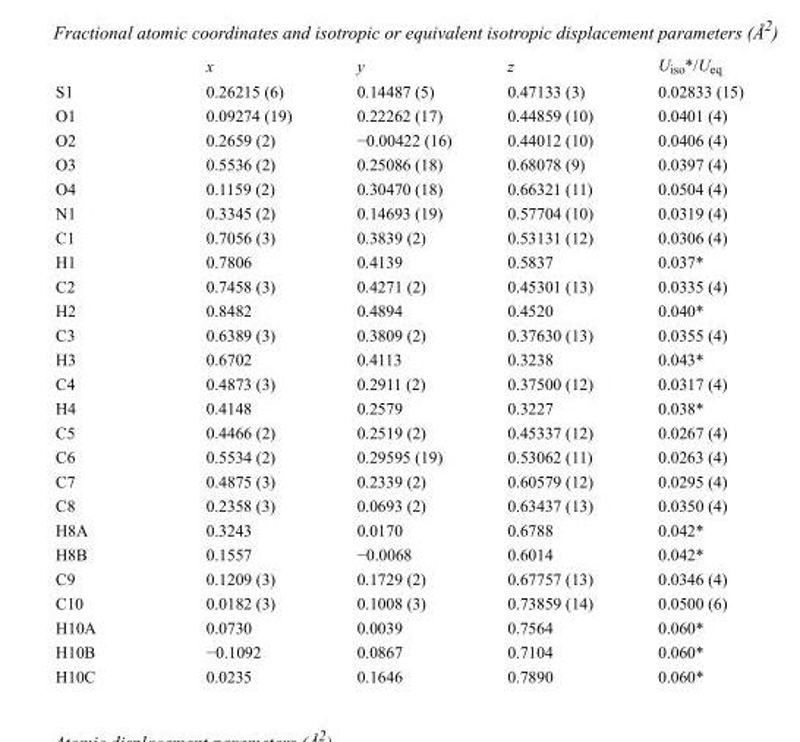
<table><thead><tr><td></td><td>x</td><td>y</td><td>z</td><td>U<sub>iso</sub>*/U<sub>eq</sub></td></tr></thead><tbody><tr><td>S1</td><td>0.26215 (6)</td><td>0.14487 (5)</td><td>0.47133 (3)</td><td>0.02833 (15)</td></tr><tr><td>O1</td><td>0.09274 (19)</td><td>0.22262 (17)</td><td>0.44859 (10)</td><td>0.0401 (4)</td></tr><tr><td>O2</td><td>0.2659 (2)</td><td>−0.00422 (16)</td><td>0.44012 (10)</td><td>0.0406 (4)</td></tr><tr><td>O3</td><td>0.5536 (2)</td><td>0.25086 (18)</td><td>0.68078 (9)</td><td>0.0397 (4)</td></tr><tr><td>O4</td><td>0.1159 (2)</td><td>0.30470 (18)</td><td>0.66321 (11)</td><td>0.0504 (4)</td></tr><tr><td>N1</td><td>0.3345 (2)</td><td>0.14693 (19)</td><td>0.57704 (10)</td><td>0.0319 (4)</td></tr><tr><td>C1</td><td>0.7056 (3)</td><td>0.3839 (2)</td><td>0.53131 (12)</td><td>0.0306 (4)</td></tr><tr><td>H1</td><td>0.7806</td><td>0.4139</td><td>0.5837</td><td>0.037*</td></tr><tr><td>C2</td><td>0.7458 (3)</td><td>0.4271 (2)</td><td>0.45301 (13)</td><td>0.0335 (4)</td></tr><tr><td>H2</td><td>0.8482</td><td>0.4894</td><td>0.4520</td><td>0.040*</td></tr><tr><td>C3</td><td>0.6389 (3)</td><td>0.3809 (2)</td><td>0.37630 (13)</td><td>0.0355 (4)</td></tr><tr><td>H3</td><td>0.6702</td><td>0.4113</td><td>0.3238</td><td>0.043*</td></tr><tr><td>C4</td><td>0.4873 (3)</td><td>0.2911 (2)</td><td>0.37500 (12)</td><td>0.0317 (4)</td></tr><tr><td>H4</td><td>0.4148</td><td>0.2579</td><td>0.3227</td><td>0.038*</td></tr><tr><td>C5</td><td>0.4466 (2)</td><td>0.2519 (2)</td><td>0.45337 (12)</td><td>0.0267 (4)</td></tr><tr><td>C6</td><td>0.5534 (2)</td><td>0.29595 (19)</td><td>0.53062 (11)</td><td>0.0263 (4)</td></tr><tr><td>C7</td><td>0.4875 (3)</td><td>0.2339 (2)</td><td>0.60579 (12)</td><td>0.0295 (4)</td></tr><tr><td>C8</td><td>0.2358 (3)</td><td>0.0693 (2)</td><td>0.63437 (13)</td><td>0.0350 (4)</td></tr><tr><td>H8A</td><td>0.3243</td><td>0.0170</td><td>0.6788</td><td>0.042*</td></tr><tr><td>H8B</td><td>0.1557</td><td>−0.0068</td><td>0.6014</td><td>0.042*</td></tr><tr><td>C9</td><td>0.1209 (3)</td><td>0.1729 (2)</td><td>0.67757 (13)</td><td>0.0346 (4)</td></tr><tr><td>C10</td><td>0.0182 (3)</td><td>0.1008 (3)</td><td>0.73859 (14)</td><td>0.0500 (6)</td></tr><tr><td>H10A</td><td>0.0730</td><td>0.0039</td><td>0.7564</td><td>0.060*</td></tr><tr><td>H10B</td><td>−0.1092</td><td>0.0867</td><td>0.7104</td><td>0.060*</td></tr><tr><td>H10C</td><td>0.0235</td><td>0.1646</td><td>0.7890</td><td>0.060*</td></tr></tbody></table>